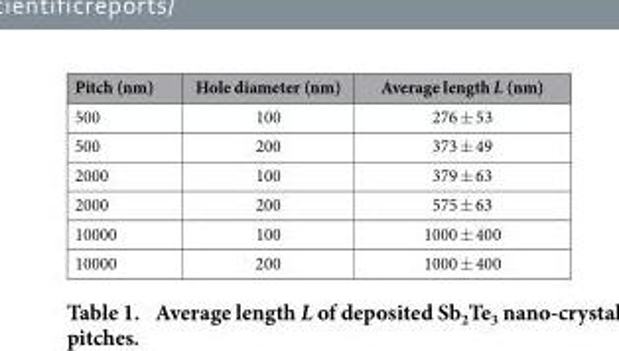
<table><thead><tr><td>Pitch (nm)</td><td>Hole diameter (nm)</td><td>Average length L (nm)</td></tr></thead><tbody><tr><td>500</td><td>100</td><td>276 ± 53</td></tr><tr><td>500</td><td>200</td><td>373 ± 49</td></tr><tr><td>2000</td><td>100</td><td>379 ± 63</td></tr><tr><td>2000</td><td>200</td><td>575 ± 63</td></tr><tr><td>10000</td><td>100</td><td>1000 ± 400</td></tr><tr><td>10000</td><td>200</td><td>1000 ± 400</td></tr></tbody></table>